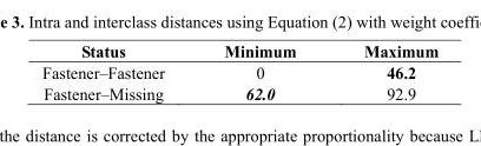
<table><thead><tr><td>Status</td><td>Minimum</td><td>Maximum</td></tr></thead><tbody><tr><td>Fastener–Fastener</td><td>0</td><td>46.2</td></tr><tr><td>Fastener–Missing</td><td>62.0</td><td>92.9</td></tr></tbody></table>